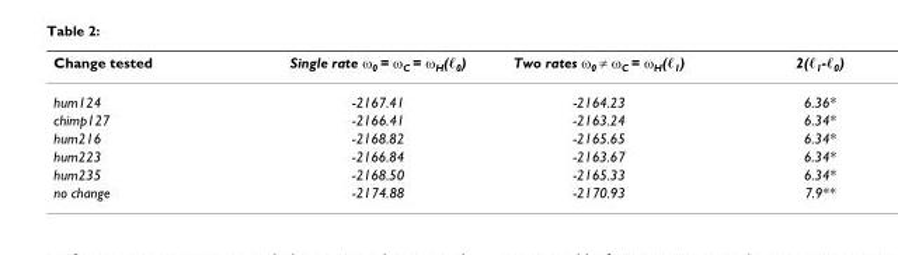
<table><thead><tr><td>Change tested</td><td>Single rate ω<sub>0</sub> = ω<sub>C</sub> = ω<sub>H</sub>(ℓ<sub>0</sub>)</td><td>Two rates ω<sub>0</sub> ≠ ω<sub>C</sub> = ω<sub>H</sub>(ℓ<sub>1</sub>)</td><td>2(ℓ<sub>1</sub>-ℓ<sub>0</sub>)</td></tr></thead><tbody><tr><td>hum124</td><td>-2167.41</td><td>-2164.23</td><td>6.36*</td></tr><tr><td>chimp127</td><td>-2166.41</td><td>-2163.24</td><td>6.34*</td></tr><tr><td>hum216</td><td>-2168.82</td><td>-2165.65</td><td>6.34*</td></tr><tr><td>hum223</td><td>-2166.84</td><td>-2163.67</td><td>6.34*</td></tr><tr><td>hum235</td><td>-2168.50</td><td>-2165.33</td><td>6.34*</td></tr><tr><td>no change</td><td>-2174.88</td><td>-2170.93</td><td>7.9**</td></tr></tbody></table>